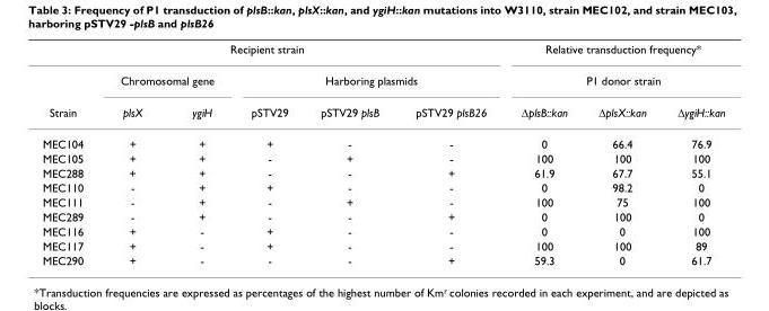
<table><thead><tr><td colspan="6">Recipient strain</td><td rowspan="2" colspan="3">Relative transduction frequency* P1 donor strain</td></tr><tr><td rowspan="2">Strain</td><td colspan="2">Chromosomal gene</td><td colspan="3">Harboring plasmids</td></tr><tr><td>plsX</td><td>ygiH</td><td>pSTV29</td><td>pSTV29 plsB</td><td>pSTV29 plsB26</td><td>ΔplsB::kan</td><td>ΔplsX::kan</td><td>ΔygiH::kan</td></tr></thead><tbody><tr><td>MEC104</td><td>+</td><td>+</td><td>+</td><td>-</td><td>-</td><td>0</td><td>66.4</td><td>76.9</td></tr><tr><td>MEC105</td><td>+</td><td>+</td><td>-</td><td>+</td><td>-</td><td>100</td><td>100</td><td>100</td></tr><tr><td>MEC288</td><td>+</td><td>+</td><td>-</td><td>-</td><td>+</td><td>61.9</td><td>67.7</td><td>55.1</td></tr><tr><td>MEC110</td><td>-</td><td>+</td><td>+</td><td>-</td><td>-</td><td>0</td><td>98.2</td><td>0</td></tr><tr><td>MEC111</td><td>-</td><td>+</td><td>-</td><td>+</td><td>-</td><td>100</td><td>75</td><td>100</td></tr><tr><td>MEC289</td><td>-</td><td>+</td><td>-</td><td>-</td><td>+</td><td>0</td><td>100</td><td>0</td></tr><tr><td>MEC116</td><td>+</td><td>-</td><td>+</td><td>-</td><td>-</td><td>0</td><td>0</td><td>100</td></tr><tr><td>MEC117</td><td>+</td><td>-</td><td>+</td><td>-</td><td>-</td><td>100</td><td>100</td><td>89</td></tr><tr><td>MEC290</td><td>+</td><td>-</td><td>-</td><td>-</td><td>+</td><td>59.3</td><td>0</td><td>61.7</td></tr></tbody></table>